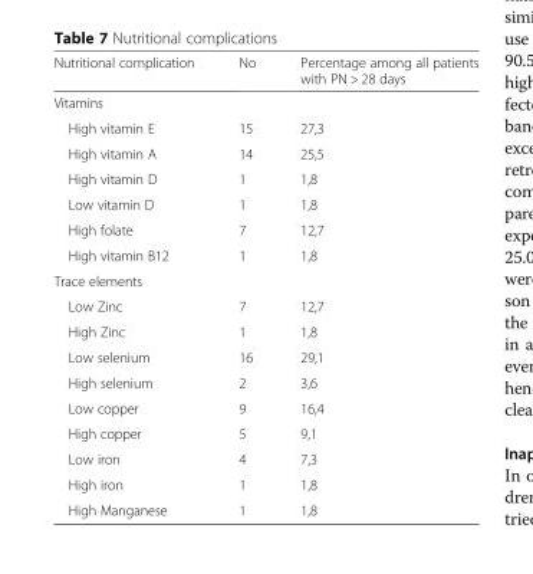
<table><thead><tr><td>Nutritional complication</td><td>No</td><td>Percentage among all patients with PN &gt; 28 days</td></tr></thead><tbody><tr><td colspan="3">Vitamins</td></tr><tr><td>High vitamin E</td><td>15</td><td>27,3</td></tr><tr><td>High vitamin A</td><td>14</td><td>25,5</td></tr><tr><td>High vitamin D</td><td>1</td><td>1,8</td></tr><tr><td>Low vitamin D</td><td>1</td><td>1,8</td></tr><tr><td>High folate</td><td>7</td><td>12,7</td></tr><tr><td>High vitamin B12</td><td>1</td><td>1,8</td></tr><tr><td colspan="3">Trace elements</td></tr><tr><td>Low Zinc</td><td>7</td><td>12,7</td></tr><tr><td>High Zinc</td><td>1</td><td>1,8</td></tr><tr><td>Low selenium</td><td>16</td><td>29,1</td></tr><tr><td>High selenium</td><td>2</td><td>3,6</td></tr><tr><td>Low copper</td><td>9</td><td>16,4</td></tr><tr><td>High copper</td><td>5</td><td>9,1</td></tr><tr><td>Low iron</td><td>4</td><td>7,3</td></tr><tr><td>High iron</td><td>1</td><td>1,8</td></tr><tr><td>High Manganese</td><td>1</td><td>1,8</td></tr></tbody></table>